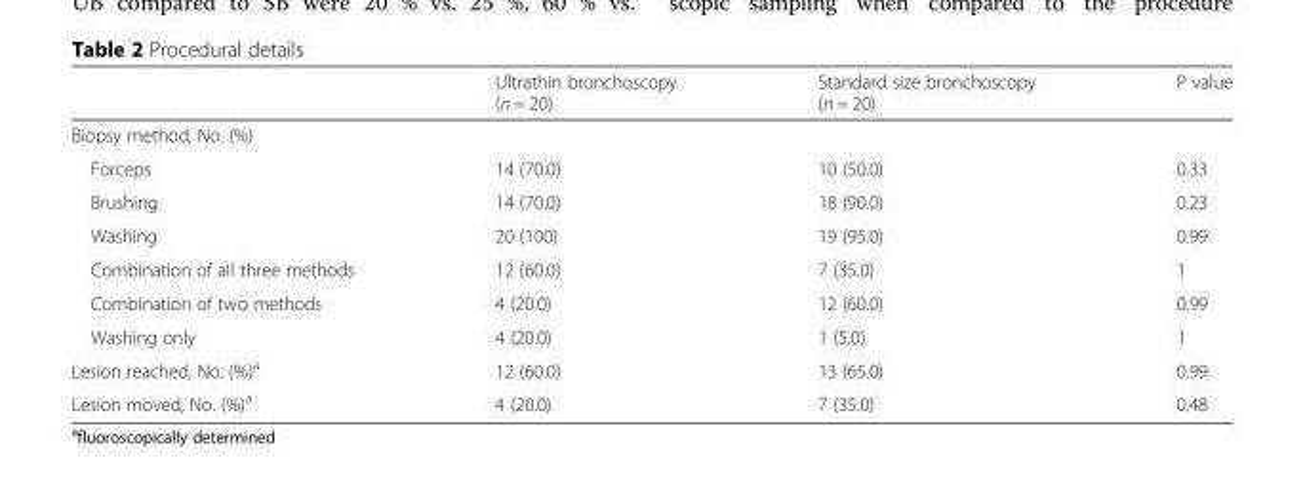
<table><thead><tr><td></td><td>Ultrathin bronchoscopy (n = 20)</td><td>Standard size bronchoscopy (n = 20)</td><td>P value</td></tr></thead><tbody><tr><td colspan="4">Biopsy method, No. (%)</td></tr><tr><td>Forceps</td><td>14 (70.0)</td><td>10 (50.0)</td><td>0.33</td></tr><tr><td>Brushing</td><td>14 (70.0)</td><td>18 (90.0)</td><td>0.23</td></tr><tr><td>Washing</td><td>20 (100)</td><td>19 (95.0)</td><td>0.99</td></tr><tr><td>Combination of all three methods</td><td>12 (60.0)</td><td>7 (35.0)</td><td>1</td></tr><tr><td>Combination of two methods</td><td>4 (20.0)</td><td>12 (60.0)</td><td>0.99</td></tr><tr><td>Washing only</td><td>4 (20.0)</td><td>1 (5.0)</td><td>1</td></tr><tr><td>Lesion reached, No. (%)<sup>a</sup></td><td>12 (60.0)</td><td>13 (65.0)</td><td>0.99</td></tr><tr><td>Lesion moved, No. (%)<sup>a</sup></td><td>4 (20.0)</td><td>7 (35.0)</td><td>0.48</td></tr></tbody></table>